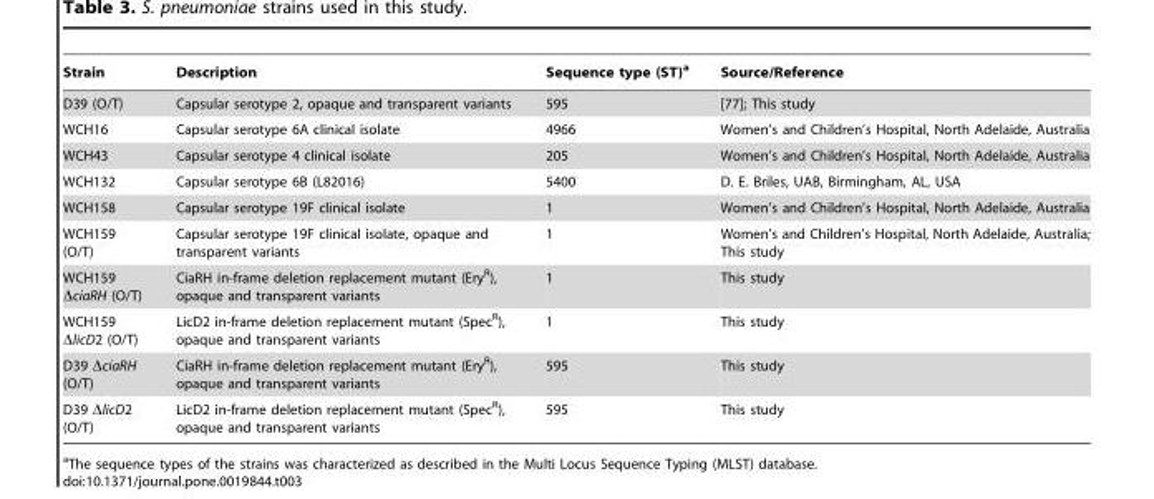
<table><thead><tr><td>Strain</td><td>Description</td><td>Sequence type (ST)<sup>a</sup></td><td>Source/Reference</td></tr></thead><tbody><tr><td>D39 (O/T)</td><td>Capsular serotype 2, opaque and transparent variants</td><td>595</td><td>[77]; This study</td></tr><tr><td>WCH16</td><td>Capsular serotype 6A clinical isolate</td><td>4966</td><td>Women’s and Children’s Hospital, North Adelaide, Australia</td></tr><tr><td>WCH43</td><td>Capsular serotype 4 clinical isolate</td><td>205</td><td>Women’s and Children’s Hospital, North Adelaide, Australia</td></tr><tr><td>WCH132</td><td>Capsular serotype 6B (L82016)</td><td>5400</td><td>D. E. Briles, UAB, Birmingham, AL, USA</td></tr><tr><td>WCH158</td><td>Capsular serotype 19F clinical isolate</td><td>1</td><td>Women’s and Children’s Hospital, North Adelaide, Australia</td></tr><tr><td>WCH159 (O/T)</td><td>Capsular serotype 19F clinical isolate, opaque and transparent variants</td><td>1</td><td>Women’s and Children’s Hospital, North Adelaide, Australia; This study</td></tr><tr><td>WCH159 ΔciaRH (O/T)</td><td>CiaRH in-frame deletion replacement mutant (Ery<sup>R</sup>), opaque and transparent variants</td><td>1</td><td>This study</td></tr><tr><td>WCH159 ΔlicD2 (O/T)</td><td>LicD2 in-frame deletion replacement mutant (Spec<sup>R</sup>), opaque and transparent variants</td><td>1</td><td>This study</td></tr><tr><td>D39 ΔciaRH (O/T)</td><td>CiaRH in-frame deletion replacement mutant (Ery<sup>R</sup>), opaque and transparent variants</td><td>595</td><td>This study</td></tr><tr><td>D39 ΔlicD2 (O/T)</td><td>LicD2 in-frame deletion replacement mutant (Spec<sup>R</sup>), opaque and transparent variants</td><td>595</td><td>This study</td></tr></tbody></table>